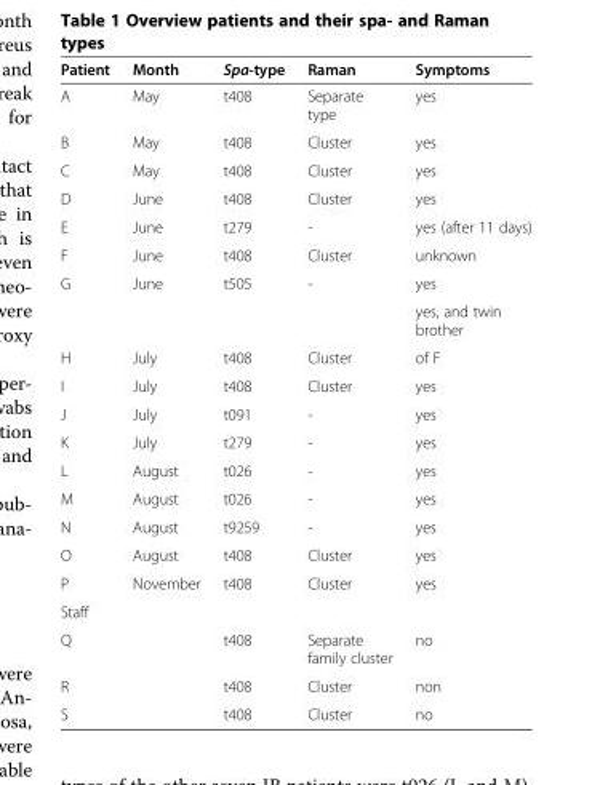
<table><thead><tr><td>Patient</td><td>Month</td><td>Spa-type</td><td>Raman</td><td>Symptoms</td></tr></thead><tbody><tr><td>A</td><td>May</td><td>t408</td><td>Separate type</td><td>yes</td></tr><tr><td>B</td><td>May</td><td>t408</td><td>Cluster</td><td>yes</td></tr><tr><td>C</td><td>May</td><td>t408</td><td>Cluster</td><td>yes</td></tr><tr><td>D</td><td>June</td><td>t408</td><td>Cluster</td><td>yes</td></tr><tr><td>E</td><td>June</td><td>t279</td><td>-</td><td>yes (after 11 days)</td></tr><tr><td>F</td><td>June</td><td>t408</td><td>Cluster</td><td>unknown</td></tr><tr><td rowspan="2">G</td><td>June</td><td>t505</td><td>-</td><td>yes</td></tr><tr><td></td><td></td><td></td><td>yes, and twin brother</td></tr><tr><td>H</td><td>July</td><td>t408</td><td>Cluster</td><td>of F</td></tr><tr><td>I</td><td>July</td><td>t408</td><td>Cluster</td><td>yes</td></tr><tr><td>J</td><td>July</td><td>t091</td><td>-</td><td>yes</td></tr><tr><td>K</td><td>July</td><td>t279</td><td>-</td><td>yes</td></tr><tr><td>L</td><td>August</td><td>t026</td><td>-</td><td>yes</td></tr><tr><td>M</td><td>August</td><td>t026</td><td>-</td><td>yes</td></tr><tr><td>N</td><td>August</td><td>t9259</td><td>-</td><td>yes</td></tr><tr><td>O</td><td>August</td><td>t408</td><td>Cluster</td><td>yes</td></tr><tr><td>P</td><td>November</td><td>t408</td><td>Cluster</td><td>yes</td></tr><tr><td colspan="5">Staff</td></tr><tr><td>Q</td><td></td><td>t408</td><td>Separate family cluster</td><td>no</td></tr><tr><td>R</td><td></td><td>t408</td><td>Cluster</td><td>non</td></tr><tr><td>S</td><td></td><td>t408</td><td>Cluster</td><td>no</td></tr></tbody></table>